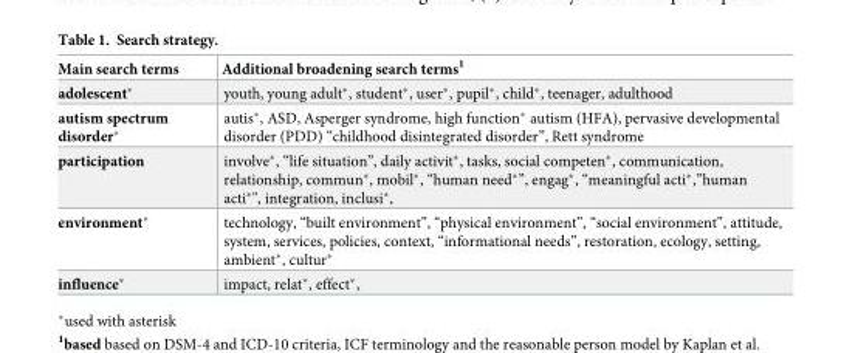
<table><thead><tr><td>Main search terms</td><td>Additional broadening search terms<sup>1</sup></td></tr></thead><tbody><tr><td>adolescent*</td><td>youth, young adult*, student*, user*, pupil*, child*, teenager, adulthood</td></tr><tr><td>autism spectrum disorder*</td><td>autis*, ASD, Asperger syndrome, high function* autism (HFA), pervasive developmental disorder (PDD) “childhood disintegrated disorder”, Rett syndrome</td></tr><tr><td>participation</td><td>involve*, “life situation”, daily activit*, tasks, social competen*, communication, relationship, commun*, mobil*, “human need*”, engag*, “meaningful acti*,”human acti*&quot;, integration, inclusi*,</td></tr><tr><td>environment*</td><td>technology, “built environment”, “physical environment”, “social environment”, attitude, system, services, policies, context, “informational needs”, restoration, ecology, setting, ambient*, cultur*</td></tr><tr><td>influence*</td><td>impact, relat*, effect*,</td></tr></tbody></table>